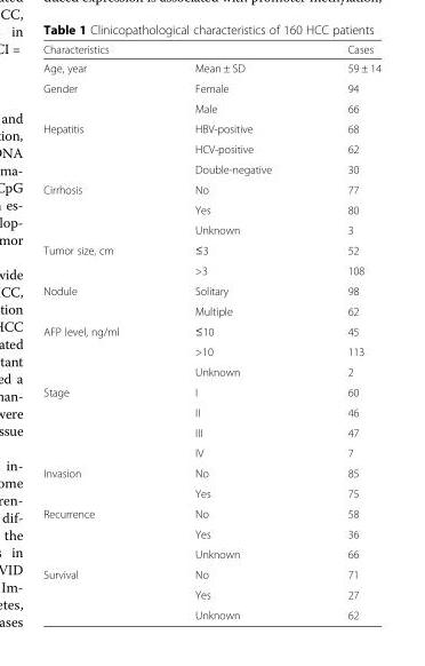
<table><thead><tr><td colspan="2">Characteristics</td><td rowspan="2">Cases 59 ± 14</td></tr><tr><td>Age, year</td><td>Mean ± SD</td></tr></thead><tbody><tr><td rowspan="2">Gender</td><td>Female</td><td>94</td></tr><tr><td>Male</td><td>66</td></tr><tr><td rowspan="3">Hepatitis</td><td>HBV-positive</td><td>68</td></tr><tr><td>HCV-positive</td><td>62</td></tr><tr><td>Double-negative</td><td>30</td></tr><tr><td rowspan="3">Cirrhosis</td><td>No</td><td>77</td></tr><tr><td>Yes</td><td>80</td></tr><tr><td>Unknown</td><td>3</td></tr><tr><td rowspan="2">Tumor size, cm</td><td>≤3</td><td>52</td></tr><tr><td>&gt;3</td><td>108</td></tr><tr><td rowspan="2">Nodule</td><td>Solitary</td><td>98</td></tr><tr><td>Multiple</td><td>62</td></tr><tr><td rowspan="3">AFP level, ng/ml</td><td>≤10</td><td>45</td></tr><tr><td>&gt;10</td><td>113</td></tr><tr><td>Unknown</td><td>2</td></tr><tr><td rowspan="4">Stage</td><td>I</td><td>60</td></tr><tr><td>II</td><td>46</td></tr><tr><td>III</td><td>47</td></tr><tr><td>IV</td><td>7</td></tr><tr><td rowspan="2">Invasion</td><td>No</td><td>85</td></tr><tr><td>Yes</td><td>75</td></tr><tr><td rowspan="3">Recurrence</td><td>No</td><td>58</td></tr><tr><td>Yes</td><td>36</td></tr><tr><td>Unknown</td><td>66</td></tr><tr><td rowspan="3">Survival</td><td>No</td><td>71</td></tr><tr><td>Yes</td><td>27</td></tr><tr><td>Unknown</td><td>62</td></tr></tbody></table>